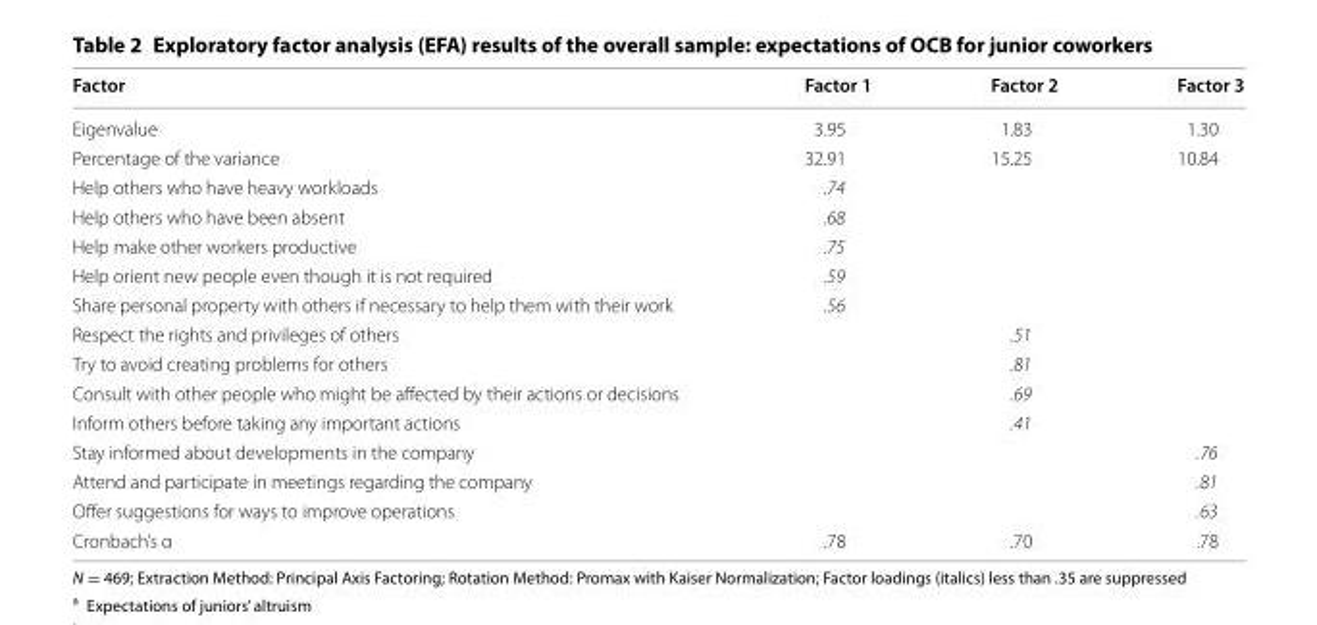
<table><thead><tr><td>Factor</td><td>Factor 1</td><td>Factor 2</td><td>Factor 3</td></tr></thead><tbody><tr><td>Eigenvalue</td><td>3.95</td><td>1.83</td><td>1.30</td></tr><tr><td>Percentage of the variance</td><td>32.91</td><td>15.25</td><td>10.84</td></tr><tr><td>Help others who have heavy workloads</td><td>.74</td><td></td><td></td></tr><tr><td>Help others who have been absent</td><td>.68</td><td></td><td></td></tr><tr><td>Help make other workers productive</td><td>.75</td><td></td><td></td></tr><tr><td>Help orient new people even though it is not required</td><td>.59</td><td></td><td></td></tr><tr><td>Share personal property with others if necessary to help them with their work</td><td>.56</td><td></td><td></td></tr><tr><td>Respect the rights and privileges of others</td><td></td><td>.51</td><td></td></tr><tr><td>Try to avoid creating problems for others</td><td></td><td>.81</td><td></td></tr><tr><td>Consult with other people who might be affected by their actions or decisions</td><td></td><td>.69</td><td></td></tr><tr><td>Inform others before taking any important actions</td><td></td><td>.41</td><td></td></tr><tr><td>Stay informed about developments in the company</td><td></td><td></td><td>.76</td></tr><tr><td>Attend and participate in meetings regarding the company</td><td></td><td></td><td>.81</td></tr><tr><td>Offer suggestions for ways to improve operations</td><td></td><td></td><td>.63</td></tr><tr><td>Cronbach’s α</td><td>.78</td><td>.70</td><td>.78</td></tr></tbody></table>